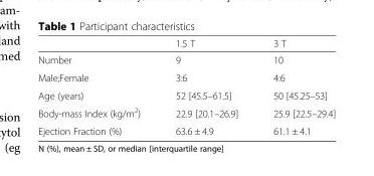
<table><thead><tr><td></td><td>1.5 T</td><td>3 T</td></tr></thead><tbody><tr><td>Number</td><td>9</td><td>10</td></tr><tr><td>Male;Female</td><td>3:6</td><td>4:6</td></tr><tr><td>Age (years)</td><td>52 [45.5–61.5]</td><td>50 [45.25–53]</td></tr><tr><td>Body-mass Index (kg/m<sup>2</sup>)</td><td>22.9 [20.1–26.9]</td><td>25.9 [22.5–29.4]</td></tr><tr><td>Ejection Fraction (%)</td><td>63.6 ± 4.9</td><td>61.1 ± 4.1</td></tr></tbody></table>